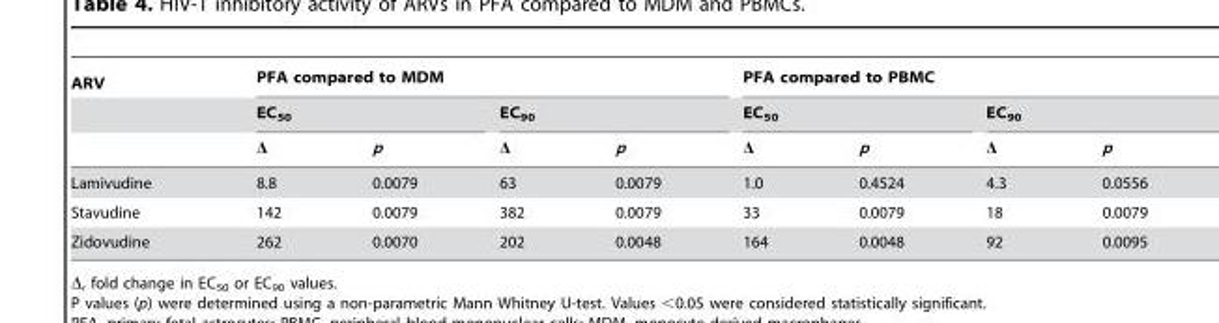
<table><thead><tr><td rowspan="3">ARV</td><td colspan="4">PFA compared to MDM</td><td colspan="4">PFA compared to PBMC</td></tr><tr><td colspan="2">EC<sub>50</sub></td><td colspan="2">EC<sub>90</sub></td><td colspan="2">EC<sub>50</sub></td><td colspan="2">EC<sub>90</sub></td></tr><tr><td>Δ</td><td>p</td><td>Δ</td><td>p</td><td>Δ</td><td>p</td><td>Δ</td><td>p</td></tr></thead><tbody><tr><td>Lamivudine</td><td>8.8</td><td>0.0079</td><td>63</td><td>0.0079</td><td>1.0</td><td>0.4524</td><td>4.3</td><td>0.0556</td></tr><tr><td>Stavudine</td><td>142</td><td>0.0079</td><td>382</td><td>0.0079</td><td>33</td><td>0.0079</td><td>18</td><td>0.0079</td></tr><tr><td>Zidovudine</td><td>262</td><td>0.0070</td><td>202</td><td>0.0048</td><td>164</td><td>0.0048</td><td>92</td><td>0.0095</td></tr></tbody></table>